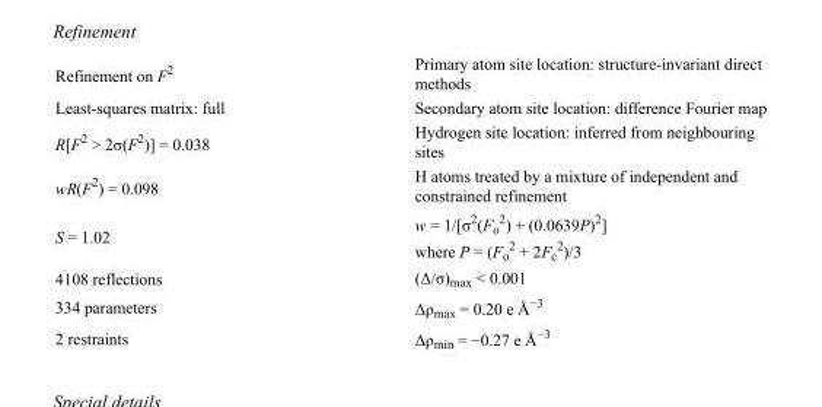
<table><tbody><tr><td>Refinement on F<sup>2</sup></td><td>Primary atom site location: structure-invariant direct methods</td></tr><tr><td>Least-squares matrix: full</td><td>Secondary atom site location: difference Fourier map</td></tr><tr><td>R[F<sup>2</sup> &gt; 2σ(F<sup>2</sup>)] = 0.038</td><td>Hydrogen site location: inferred from neighbouring sites</td></tr><tr><td>wR(F<sup>2</sup>) = 0.098</td><td>H atoms treated by a mixture of independent and constrained refinement</td></tr><tr><td>S = 1.02</td><td>w = 1/[σ<sup>2</sup>(F<sub>o</sub> <sup>2</sup>) + (0.0639P)<sup>2</sup>] where P = (F<sub>o</sub> <sup>2</sup> + 2F<sub>c</sub> <sup>2</sup>)/3</td></tr><tr><td>4108 reflections</td><td>(Δ/σ)<sub>max</sub> &lt; 0.001</td></tr><tr><td>334 parameters</td><td>Δρ<sub>max</sub> = 0.20 e Å<sup>−3</sup></td></tr><tr><td>2 restraints</td><td>Δρmin = −0.27 e Å−3</td></tr></tbody></table>